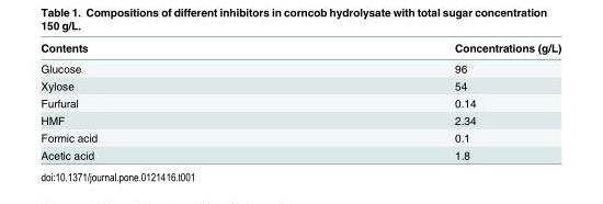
<table><thead><tr><td>Contents</td><td>Concentrations (g/L)</td></tr></thead><tbody><tr><td>Glucose</td><td>96</td></tr><tr><td>Xylose</td><td>54</td></tr><tr><td>Furfural</td><td>0.14</td></tr><tr><td>HMF</td><td>2.34</td></tr><tr><td>Formic acid</td><td>0.1</td></tr><tr><td>Acetic acid</td><td>1.8</td></tr></tbody></table>